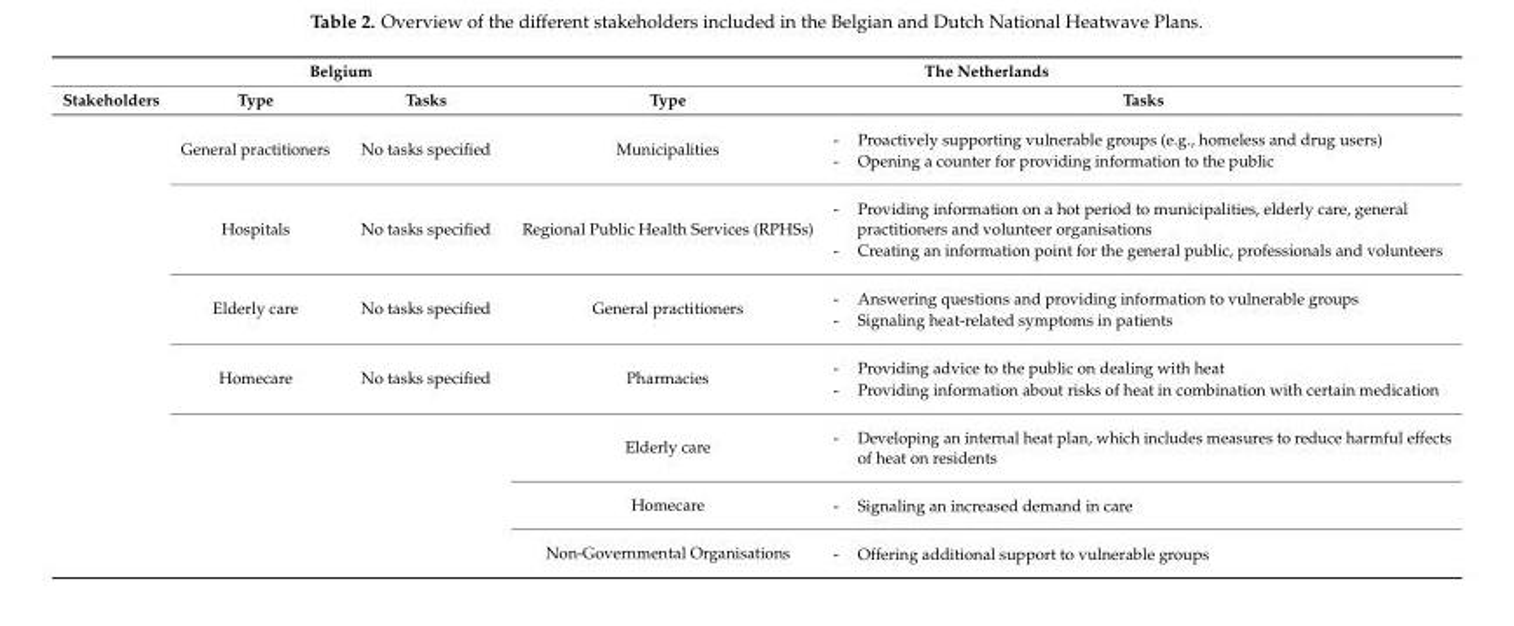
<table><thead><tr><td rowspan="2">Stakeholders</td><td colspan="2">Belgium</td><td colspan="2">The Netherlands</td></tr><tr><td>Type</td><td>Tasks</td><td>Type</td><td>Tasks</td></tr></thead><tbody><tr><td></td><td>General practitioners</td><td>No tasks specified</td><td>Municipalities</td><td>- Proactively supporting vulnerable groups (e.g., homeless and drug users) - Opening a counter for providing information to the public</td></tr><tr><td></td><td>Hospitals</td><td>No tasks specified</td><td>Regional Public Health Services (RPHSs)</td><td>- Providing information on a hot period to municipalities, elderly care, general practitioners and volunteer organisations - Creating an information point for the general public, professionals and volunteers</td></tr><tr><td></td><td>Elderly care</td><td>No tasks specified</td><td>General practitioners</td><td>- Answering questions and providing information to vulnerable groups - Signaling heat-related symptoms in patients</td></tr><tr><td></td><td>Homecare</td><td>No tasks specified</td><td>Pharmacies</td><td>- Providing advice to the public on dealing with heat - Providing information about risks of heat in combination with certain medication</td></tr><tr><td></td><td></td><td></td><td>Elderly care</td><td>- Developing an internal heat plan, which includes measures to reduce harmful effects of heat on residents</td></tr><tr><td></td><td></td><td></td><td>Homecare</td><td>- Signaling an increased demand in care</td></tr><tr><td></td><td></td><td></td><td>Non-Governmental Organisations</td><td>- Offering additional support to vulnerable groups</td></tr></tbody></table>